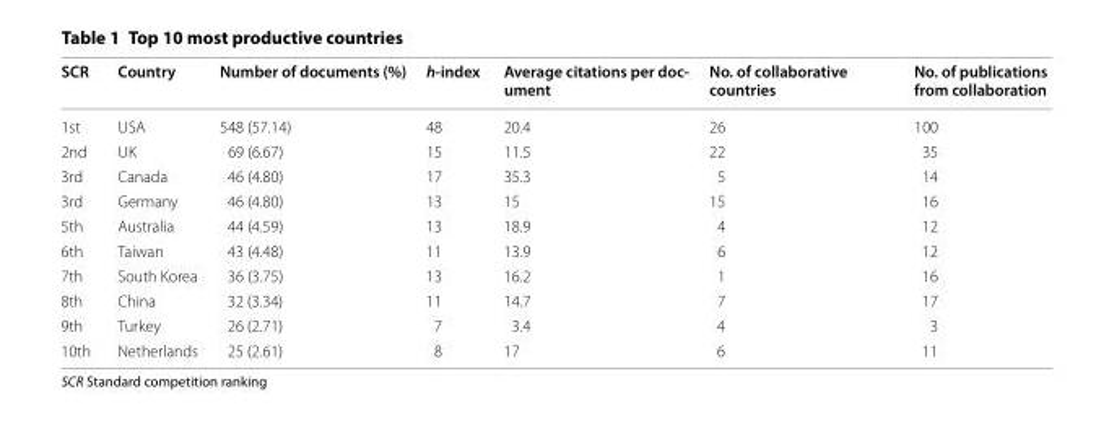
<table><thead><tr><td>SCR</td><td>Country</td><td>Number of documents (%)</td><td>h-index</td><td>Average citations per doc- ument</td><td>No. of collaborative countries</td><td>No. of publications from collaboration</td></tr></thead><tbody><tr><td>1st</td><td>USA</td><td>548 (57.14)</td><td>48</td><td>20.4</td><td>26</td><td>100</td></tr><tr><td>2nd</td><td>UK</td><td>69 (6.67)</td><td>15</td><td>11.5</td><td>22</td><td>35</td></tr><tr><td>3rd</td><td>Canada</td><td>46 (4.80)</td><td>17</td><td>35.3</td><td>5</td><td>14</td></tr><tr><td>3rd</td><td>Germany</td><td>46 (4.80)</td><td>13</td><td>15</td><td>15</td><td>16</td></tr><tr><td>5th</td><td>Australia</td><td>44 (4.59)</td><td>13</td><td>18.9</td><td>4</td><td>12</td></tr><tr><td>6th</td><td>Taiwan</td><td>43 (4.48)</td><td>11</td><td>13.9</td><td>6</td><td>12</td></tr><tr><td>7th</td><td>South Korea</td><td>36 (3.75)</td><td>13</td><td>16.2</td><td>1</td><td>16</td></tr><tr><td>8th</td><td>China</td><td>32 (3.34)</td><td>11</td><td>14.7</td><td>7</td><td>17</td></tr><tr><td>9th</td><td>Turkey</td><td>26 (2.71)</td><td>7</td><td>3.4</td><td>4</td><td>3</td></tr><tr><td>10th</td><td>Netherlands</td><td>25 (2.61)</td><td>8</td><td>17</td><td>6</td><td>11</td></tr></tbody></table>